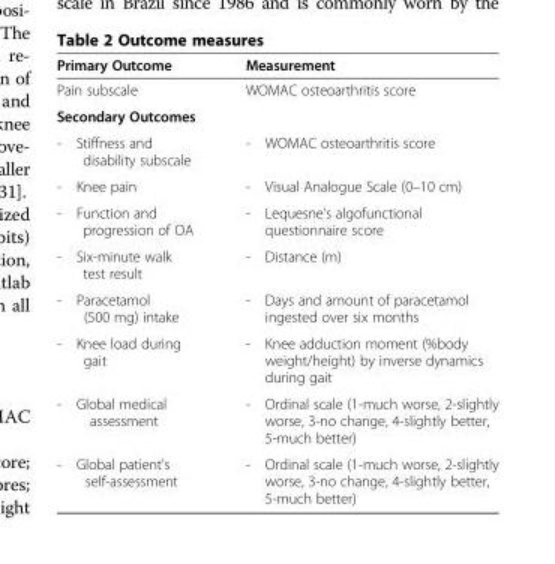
<table><thead><tr><td>Primary Outcome</td><td>Measurement</td></tr></thead><tbody><tr><td>Pain subscale</td><td>WOMAC osteoarthritis score</td></tr><tr><td colspan="2">Secondary Outcomes</td></tr><tr><td>- Stiffness and disability subscale</td><td>- WOMAC osteoarthritis score</td></tr><tr><td>- Knee pain</td><td>- Visual Analogue Scale (0–10 cm)</td></tr><tr><td>- Function and progression of OA</td><td>- Lequesne’s algofunctional questionnaire score</td></tr><tr><td>- Six-minute walk test result</td><td>- Distance (m)</td></tr><tr><td>- Paracetamol (500 mg) intake</td><td>- Days and amount of paracetamol ingested over six months</td></tr><tr><td>- Knee load during gait</td><td>- Knee adduction moment (%body weight/height) by inverse dynamics during gait</td></tr><tr><td>- Global medical assessment</td><td>- Ordinal scale (1-much worse, 2-slightly worse, 3-no change, 4-slightly better, 5-much better)</td></tr><tr><td>- Global patient’s self-assessment</td><td>- Ordinal scale (1-much worse, 2-slightly worse, 3-no change, 4-slightly better, 5-much better)</td></tr></tbody></table>